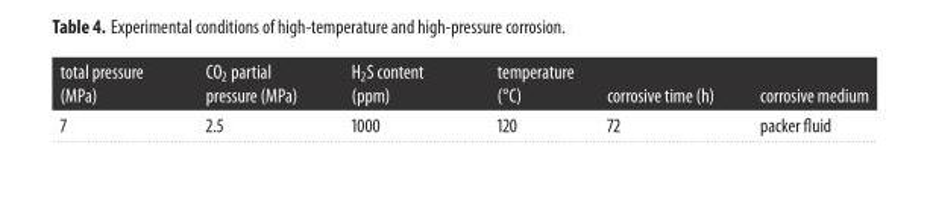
<table><thead><tr><td>total pressure (MPa)</td><td>CO<sub>2</sub> partial pressure (MPa)</td><td>H<sub>2</sub>S content (ppm)</td><td>temperature (°C)</td><td>corrosive time (h)</td><td>corrosive medium</td></tr></thead><tbody><tr><td>7</td><td>2.5</td><td>1000</td><td>120</td><td>72</td><td>packer fluid</td></tr></tbody></table>